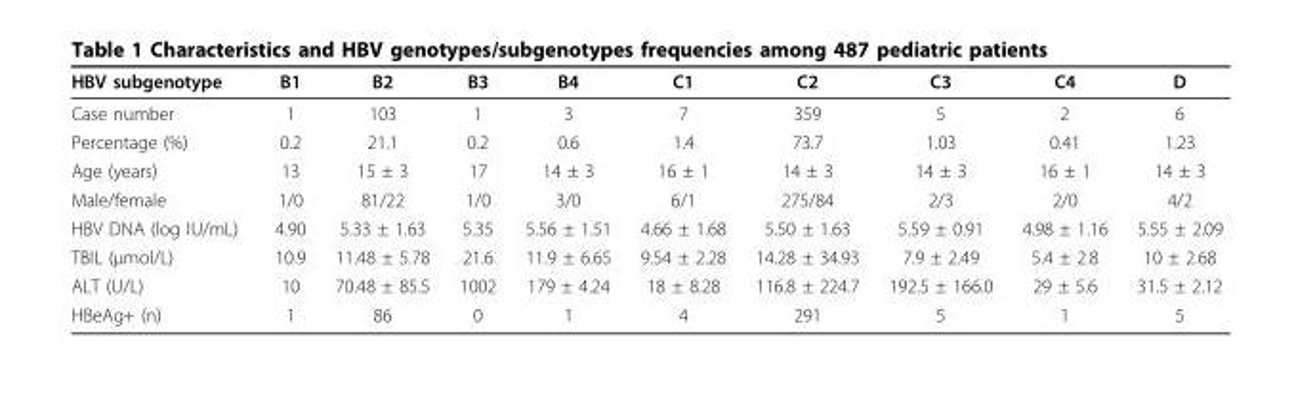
<table><thead><tr><td>HBV subgenotype</td><td>B1</td><td>B2</td><td>B3</td><td>B4</td><td>C1</td><td>C2</td><td>C3</td><td>C4</td><td>D</td></tr></thead><tbody><tr><td>Case number</td><td>1</td><td>103</td><td>1</td><td>3</td><td>7</td><td>359</td><td>5</td><td>2</td><td>6</td></tr><tr><td>Percentage (%)</td><td>0.2</td><td>21.1</td><td>0.2</td><td>0.6</td><td>1.4</td><td>73.7</td><td>1.03</td><td>0.41</td><td>1.23</td></tr><tr><td>Age (years)</td><td>13</td><td>15 ± 3</td><td>17</td><td>14 ± 3</td><td>16 ± 1</td><td>14 ± 3</td><td>14 ± 3</td><td>16 ± 1</td><td>14 ± 3</td></tr><tr><td>Male/female</td><td>1/0</td><td>81/22</td><td>1/0</td><td>3/0</td><td>6/1</td><td>275/84</td><td>2/3</td><td>2/0</td><td>4/2</td></tr><tr><td>HBV DNA (log IU/mL)</td><td>4.90</td><td>5.33 ± 1.63</td><td>5.35</td><td>5.56 ± 1.51</td><td>4.66 ± 1.68</td><td>5.50 ± 1.63</td><td>5.59 ± 0.91</td><td>4.98 ± 1.16</td><td>5.55 ± 2.09</td></tr><tr><td>TBIL (μmol/L)</td><td>10.9</td><td>11.48 ± 5.78</td><td>21.6</td><td>11.9 ± 6.65</td><td>9.54 ± 2.28</td><td>14.28 ± 34.93</td><td>7.9 ± 2.49</td><td>5.4 ± 2.8</td><td>10 ± 2.68</td></tr><tr><td>ALT (U/L)</td><td>10</td><td>70.48 ± 85.5</td><td>1002</td><td>179 ± 4.24</td><td>18 ± 8.28</td><td>116.8 ± 224.7</td><td>192.5 ± 166.0</td><td>29 ± 5.6</td><td>31.5 ± 2.12</td></tr><tr><td>HBeAg+ (n)</td><td>1</td><td>86</td><td>0</td><td>1</td><td>4</td><td>291</td><td>5</td><td>1</td><td>5</td></tr></tbody></table>